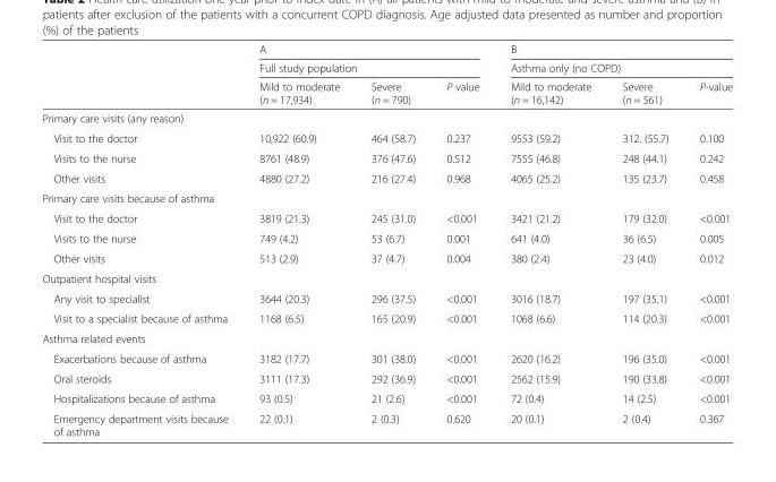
<table><thead><tr><td rowspan="3"></td><td rowspan="2" colspan="3">A Full study population</td><td rowspan="2" colspan="3">B Asthma only (no COPD)</td></tr><tr></tr><tr><td>Mild to moderate (n = 17,934)</td><td>Severe (n = 790)</td><td>P value</td><td>Mild to moderate (n = 16,142)</td><td>Severe (n = 561)</td><td>P-value</td></tr></thead><tbody><tr><td colspan="7">Primary care visits (any reason)</td></tr><tr><td>Visit to the doctor</td><td>10,922 (60.9)</td><td>464 (58.7)</td><td>0.237</td><td>9553 (59.2)</td><td>312. (55.7)</td><td>0.100</td></tr><tr><td>Visits to the nurse</td><td>8761 (48.9)</td><td>376 (47.6)</td><td>0.512</td><td>7555 (46.8)</td><td>248 (44.1)</td><td>0.242</td></tr><tr><td>Other visits</td><td>4880 (27.2)</td><td>216 (27.4)</td><td>0.968</td><td>4065 (25.2)</td><td>135 (23.7)</td><td>0.458</td></tr><tr><td colspan="7">Primary care visits because of asthma</td></tr><tr><td>Visit to the doctor</td><td>3819 (21.3)</td><td>245 (31.0)</td><td>&lt;0.001</td><td>3421 (21.2)</td><td>179 (32.0)</td><td>&lt;0.001</td></tr><tr><td>Visits to the nurse</td><td>749 (4.2)</td><td>53 (6.7)</td><td>0.001</td><td>641 (4.0)</td><td>36 (6.5)</td><td>0.005</td></tr><tr><td>Other visits</td><td>513 (2.9)</td><td>37 (4.7)</td><td>0.004</td><td>380 (2.4)</td><td>23 (4.0)</td><td>0.012</td></tr><tr><td colspan="7">Outpatient hospital visits</td></tr><tr><td>Any visit to specialist</td><td>3644 (20.3)</td><td>296 (37.5)</td><td>&lt;0.001</td><td>3016 (18.7)</td><td>197 (35.1)</td><td>&lt;0.001</td></tr><tr><td>Visit to a specialist because of asthma</td><td>1168 (6.5)</td><td>165 (20.9)</td><td>&lt;0.001</td><td>1068 (6.6)</td><td>114 (20.3)</td><td>&lt;0.001</td></tr><tr><td colspan="7">Asthma related events</td></tr><tr><td>Exacerbations because of asthma</td><td>3182 (17.7)</td><td>301 (38.0)</td><td>&lt;0.001</td><td>2620 (16.2)</td><td>196 (35.0)</td><td>&lt;0.001</td></tr><tr><td>Oral steroids</td><td>3111 (17.3)</td><td>292 (36.9)</td><td>&lt;0.001</td><td>2562 (15.9)</td><td>190 (33.8)</td><td>&lt;0.001</td></tr><tr><td>Hospitalizations because of asthma</td><td>93 (0.5)</td><td>21 (2.6)</td><td>&lt;0.001</td><td>72 (0.4)</td><td>14 (2.5)</td><td>&lt;0.001</td></tr><tr><td>Emergency department visits because of asthma</td><td>22 (0.1)</td><td>2 (0.3)</td><td>0.620</td><td>20 (0.1)</td><td>2 (0.4)</td><td>0.367</td></tr></tbody></table>